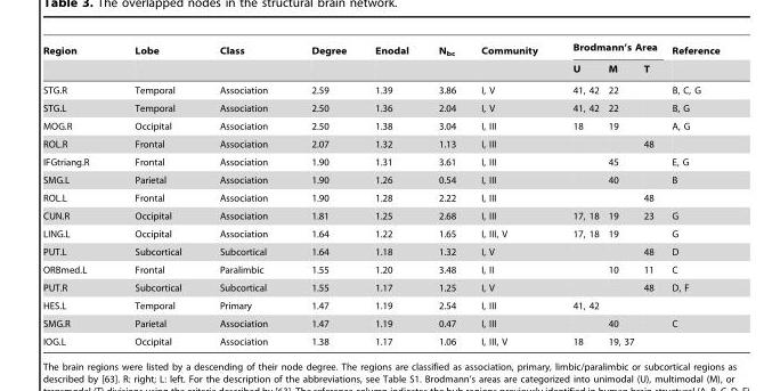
<table><thead><tr><td rowspan="2">Region</td><td rowspan="2">Lobe</td><td rowspan="2">Class</td><td rowspan="2">Degree</td><td rowspan="2">Enodal</td><td rowspan="2">N<sub>bc</sub></td><td rowspan="2">Community</td><td colspan="3">Brodmann’s Area</td><td rowspan="2">Reference</td></tr><tr><td>U</td><td>M</td><td>T</td></tr></thead><tbody><tr><td>STG.R</td><td>Temporal</td><td>Association</td><td>2.59</td><td>1.39</td><td>3.86</td><td>I, V</td><td>41, 42</td><td>22</td><td></td><td>B, C, G</td></tr><tr><td>STG.L</td><td>Temporal</td><td>Association</td><td>2.50</td><td>1.36</td><td>2.04</td><td>I, V</td><td>41, 42</td><td>22</td><td></td><td>B, G</td></tr><tr><td>MOG.R</td><td>Occipital</td><td>Association</td><td>2.50</td><td>1.38</td><td>3.04</td><td>I, III</td><td>18</td><td>19</td><td></td><td>A, G</td></tr><tr><td>ROL.R</td><td>Frontal</td><td>Association</td><td>2.07</td><td>1.32</td><td>1.13</td><td>I, III</td><td></td><td></td><td>48</td><td></td></tr><tr><td>IFGtriang.R</td><td>Frontal</td><td>Association</td><td>1.90</td><td>1.31</td><td>3.61</td><td>I, III</td><td></td><td>45</td><td></td><td>E, G</td></tr><tr><td>SMG.L</td><td>Parietal</td><td>Association</td><td>1.90</td><td>1.26</td><td>0.54</td><td>I, III</td><td></td><td>40</td><td></td><td>B</td></tr><tr><td>ROL.L</td><td>Frontal</td><td>Association</td><td>1.90</td><td>1.28</td><td>2.22</td><td>I, III</td><td></td><td></td><td>48</td><td></td></tr><tr><td>CUN.R</td><td>Occipital</td><td>Association</td><td>1.81</td><td>1.25</td><td>2.68</td><td>I, III</td><td>17, 18</td><td>19</td><td>23</td><td>G</td></tr><tr><td>LING.L</td><td>Occipital</td><td>Association</td><td>1.64</td><td>1.22</td><td>1.65</td><td>I, III, V</td><td>17, 18</td><td>19</td><td></td><td>G</td></tr><tr><td>PUT.L</td><td>Subcortical</td><td>Subcortical</td><td>1.64</td><td>1.18</td><td>1.32</td><td>I, V</td><td></td><td></td><td>48</td><td>D</td></tr><tr><td>ORBmed.L</td><td>Frontal</td><td>Paralimbic</td><td>1.55</td><td>1.20</td><td>3.48</td><td>I, II</td><td></td><td>10</td><td>11</td><td>C</td></tr><tr><td>PUT.R</td><td>Subcortical</td><td>Subcortical</td><td>1.55</td><td>1.17</td><td>1.25</td><td>I, V</td><td></td><td></td><td>48</td><td>D, F</td></tr><tr><td>HES.L</td><td>Temporal</td><td>Primary</td><td>1.47</td><td>1.19</td><td>2.54</td><td>I, III</td><td>41, 42</td><td></td><td></td><td></td></tr><tr><td>SMG.R</td><td>Parietal</td><td>Association</td><td>1.47</td><td>1.19</td><td>0.47</td><td>I, III</td><td></td><td>40</td><td></td><td>C</td></tr><tr><td>IOG.L</td><td>Occipital</td><td>Association</td><td>1.38</td><td>1.17</td><td>1.06</td><td>I, III, V</td><td>18</td><td>19, 37</td><td></td><td></td></tr></tbody></table>